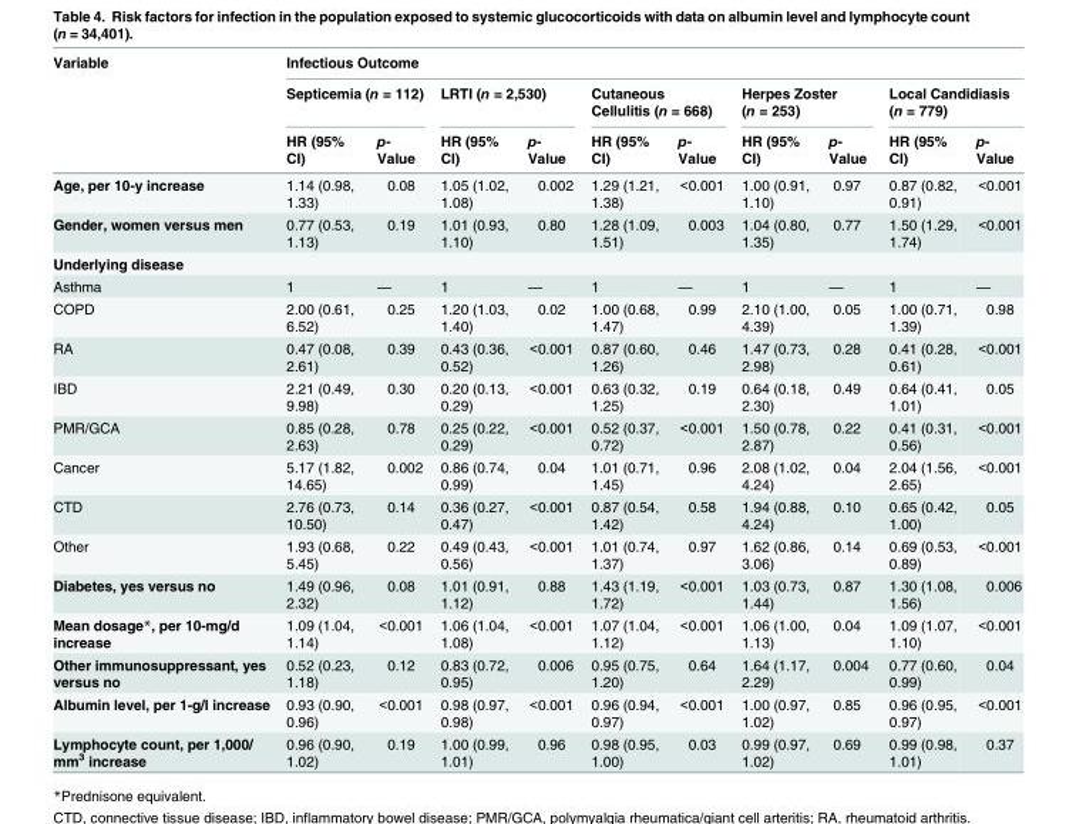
<table><thead><tr><td rowspan="3">Variable</td><td colspan="10">Infectious Outcome</td></tr><tr><td colspan="2">Septicemia (n = 112)</td><td colspan="2">LRTI (n = 2,530)</td><td colspan="2">Cutaneous Cellulitis (n = 668)</td><td colspan="2">Herpes Zoster (n = 253)</td><td colspan="2">Local Candidiasis (n = 779)</td></tr><tr><td>HR (95% CI)</td><td>p- Value</td><td>HR (95% CI)</td><td>p- Value</td><td>HR (95% CI)</td><td>p- Value</td><td>HR (95% CI)</td><td>p- Value</td><td>HR (95% CI)</td><td>p- Value</td></tr></thead><tbody><tr><td>Age, per 10-y increase</td><td>1.14 (0.98, 1.33)</td><td>0.08</td><td>1.05 (1.02, 1.08)</td><td>0.002</td><td>1.29 (1.21, 1.38)</td><td>&lt;0.001</td><td>1.00 (0.91, 1.10)</td><td>0.97</td><td>0.87 (0.82, 0.91)</td><td>&lt;0.001</td></tr><tr><td>Gender, women versus men</td><td>0.77 (0.53, 1.13)</td><td>0.19</td><td>1.01 (0.93, 1.10)</td><td>0.80</td><td>1.28 (1.09, 1.51)</td><td>0.003</td><td>1.04 (0.80, 1.35)</td><td>0.77</td><td>1.50 (1.29, 1.74)</td><td>&lt;0.001</td></tr><tr><td colspan="11">Underlying disease</td></tr><tr><td>Asthma</td><td>1</td><td>—</td><td>1</td><td>—</td><td>1</td><td>—</td><td>1</td><td>—</td><td>1</td><td>—</td></tr><tr><td>COPD</td><td>2.00 (0.61, 6.52)</td><td>0.25</td><td>1.20 (1.03, 1.40)</td><td>0.02</td><td>1.00 (0.68, 1.47)</td><td>0.99</td><td>2.10 (1.00, 4.39)</td><td>0.05</td><td>1.00 (0.71, 1.39)</td><td>0.98</td></tr><tr><td>RA</td><td>0.47 (0.08, 2.61)</td><td>0.39</td><td>0.43 (0.36, 0.52)</td><td>&lt;0.001</td><td>0.87 (0.60, 1.26)</td><td>0.46</td><td>1.47 (0.73, 2.98)</td><td>0.28</td><td>0.41 (0.28, 0.61)</td><td>&lt;0.001</td></tr><tr><td>IBD</td><td>2.21 (0.49, 9.98)</td><td>0.30</td><td>0.20 (0.13, 0.29)</td><td>&lt;0.001</td><td>0.63 (0.32, 1.25)</td><td>0.19</td><td>0.64 (0.18, 2.30)</td><td>0.49</td><td>0.64 (0.41, 1.01)</td><td>0.05</td></tr><tr><td>PMR/GCA</td><td>0.85 (0.28, 2.63)</td><td>0.78</td><td>0.25 (0.22, 0.29)</td><td>&lt;0.001</td><td>0.52 (0.37, 0.72)</td><td>&lt;0.001</td><td>1.50 (0.78, 2.87)</td><td>0.22</td><td>0.41 (0.31, 0.56)</td><td>&lt;0.001</td></tr><tr><td>Cancer</td><td>5.17 (1.82, 14.65)</td><td>0.002</td><td>0.86 (0.74, 0.99)</td><td>0.04</td><td>1.01 (0.71, 1.45)</td><td>0.96</td><td>2.08 (1.02, 4.24)</td><td>0.04</td><td>2.04 (1.56, 2.65)</td><td>&lt;0.001</td></tr><tr><td>CTD</td><td>2.76 (0.73, 10.50)</td><td>0.14</td><td>0.36 (0.27, 0.47)</td><td>&lt;0.001</td><td>0.87 (0.54, 1.42)</td><td>0.58</td><td>1.94 (0.88, 4.24)</td><td>0.10</td><td>0.65 (0.42, 1.00)</td><td>0.05</td></tr><tr><td>Other</td><td>1.93 (0.68, 5.45)</td><td>0.22</td><td>0.49 (0.43, 0.56)</td><td>&lt;0.001</td><td>1.01 (0.74, 1.37)</td><td>0.97</td><td>1.62 (0.86, 3.06)</td><td>0.14</td><td>0.69 (0.53, 0.89)</td><td>&lt;0.001</td></tr><tr><td>Diabetes, yes versus no</td><td>1.49 (0.96, 2.32)</td><td>0.08</td><td>1.01 (0.91, 1.12)</td><td>0.88</td><td>1.43 (1.19, 1.72)</td><td>&lt;0.001</td><td>1.03 (0.73, 1.44)</td><td>0.87</td><td>1.30 (1.08, 1.56)</td><td>0.006</td></tr><tr><td>Mean dosage*, per 10-mg/d increase</td><td>1.09 (1.04, 1.14)</td><td>&lt;0.001</td><td>1.06 (1.04, 1.08)</td><td>&lt;0.001</td><td>1.07 (1.04, 1.12)</td><td>&lt;0.001</td><td>1.06 (1.00, 1.13)</td><td>0.04</td><td>1.09 (1.07, 1.10)</td><td>&lt;0.001</td></tr><tr><td>Other immunosuppressant, yes versus no</td><td>0.52 (0.23, 1.18)</td><td>0.12</td><td>0.83 (0.72, 0.95)</td><td>0.006</td><td>0.95 (0.75, 1.20)</td><td>0.64</td><td>1.64 (1.17, 2.29)</td><td>0.004</td><td>0.77 (0.60, 0.99)</td><td>0.04</td></tr><tr><td>Albumin level, per 1-g/l increase</td><td>0.93 (0.90, 0.96)</td><td>&lt;0.001</td><td>0.98 (0.97, 0.98)</td><td>&lt;0.001</td><td>0.96 (0.94, 0.97)</td><td>&lt;0.001</td><td>1.00 (0.97, 1.02)</td><td>0.85</td><td>0.96 (0.95, 0.97)</td><td>&lt;0.001</td></tr><tr><td>Lymphocyte count, per 1,000/ mm<sup>3</sup> increase</td><td>0.96 (0.90, 1.02)</td><td>0.19</td><td>1.00 (0.99, 1.01)</td><td>0.96</td><td>0.98 (0.95, 1.00)</td><td>0.03</td><td>0.99 (0.97, 1.02)</td><td>0.69</td><td>0.99 (0.98, 1.01)</td><td>0.37</td></tr></tbody></table>